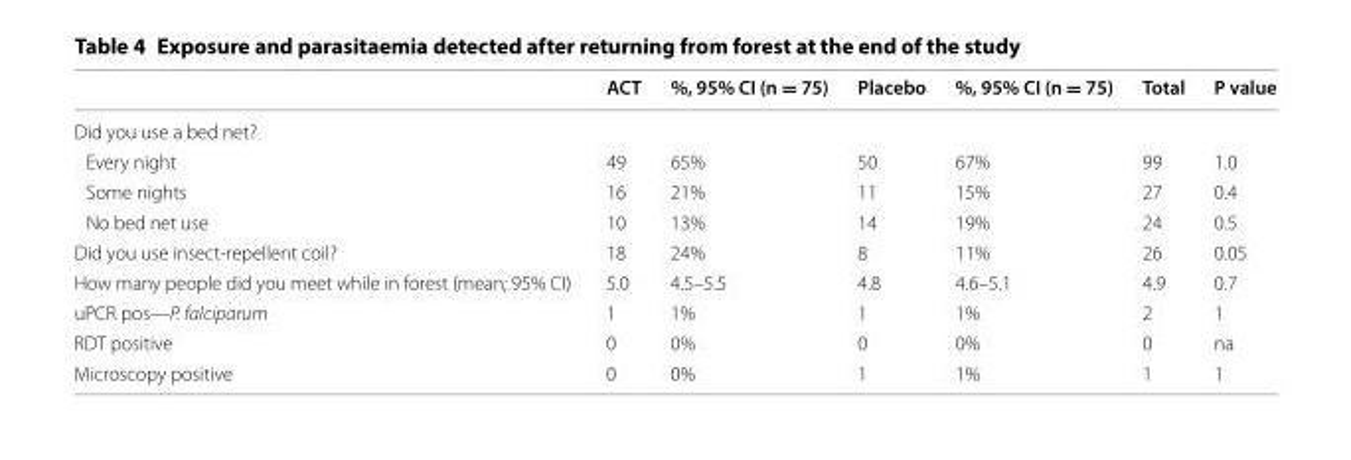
<table><thead><tr><td></td><td>ACT</td><td>%, 95% CI (n = 75)</td><td>Placebo</td><td>%, 95% CI (n = 75)</td><td>Total</td><td>P value</td></tr></thead><tbody><tr><td colspan="7">Did you use a bed net?</td></tr><tr><td>Every night</td><td>49</td><td>65%</td><td>50</td><td>67%</td><td>99</td><td>1.0</td></tr><tr><td>Some nights</td><td>16</td><td>21%</td><td>11</td><td>15%</td><td>27</td><td>0.4</td></tr><tr><td>No bed net use</td><td>10</td><td>13%</td><td>14</td><td>19%</td><td>24</td><td>0.5</td></tr><tr><td>Did you use insect‑repellent coil?</td><td>18</td><td>24%</td><td>8</td><td>11%</td><td>26</td><td>0.05</td></tr><tr><td>How many people did you meet while in forest (mean; 95% CI)</td><td>5.0</td><td>4.5–5.5</td><td>4.8</td><td>4.6–5.1</td><td>4.9</td><td>0.7</td></tr><tr><td>uPCR pos—P. falciparum</td><td>1</td><td>1%</td><td>1</td><td>1%</td><td>2</td><td>1</td></tr><tr><td>RDT positive</td><td>0</td><td>0%</td><td>0</td><td>0%</td><td>0</td><td>na</td></tr><tr><td>Microscopy positive</td><td>0</td><td>0%</td><td>1</td><td>1%</td><td>1</td><td>1</td></tr></tbody></table>